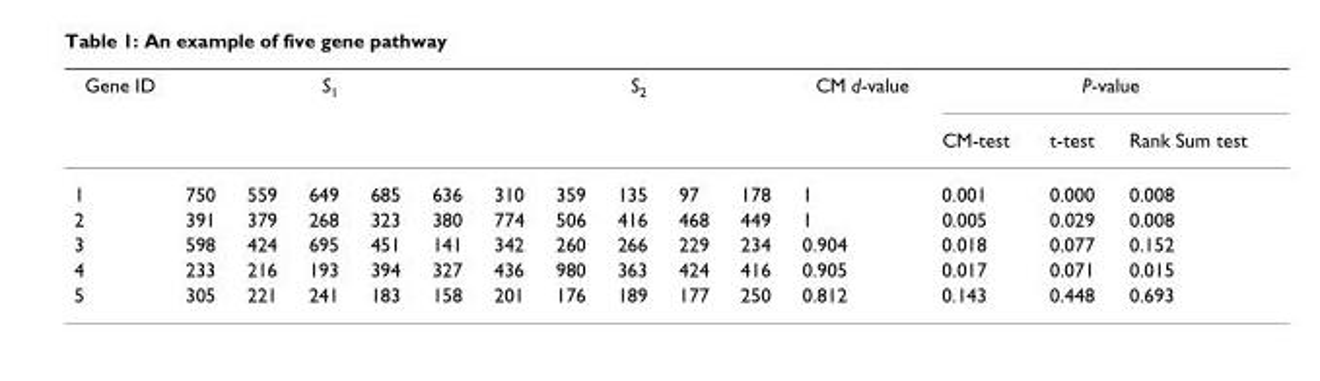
<table><thead><tr><td rowspan="2">Gene ID</td><td colspan="5">S<sub>1</sub></td><td colspan="5">S<sub>2</sub></td><td rowspan="2">CM d-value</td><td colspan="3">P-value</td></tr><tr><td></td><td></td><td></td><td></td><td></td><td></td><td></td><td></td><td></td><td></td><td>CM-test</td><td>t-test</td><td>Rank Sum test</td></tr></thead><tbody><tr><td>1</td><td>750</td><td>559</td><td>649</td><td>685</td><td>636</td><td>310</td><td>359</td><td>135</td><td>97</td><td>178</td><td>1</td><td>0.001</td><td>0.000</td><td>0.008</td></tr><tr><td>2</td><td>391</td><td>379</td><td>268</td><td>323</td><td>380</td><td>774</td><td>506</td><td>416</td><td>468</td><td>449</td><td>1</td><td>0.005</td><td>0.029</td><td>0.008</td></tr><tr><td>3</td><td>598</td><td>424</td><td>695</td><td>451</td><td>141</td><td>342</td><td>260</td><td>266</td><td>229</td><td>234</td><td>0.904</td><td>0.018</td><td>0.077</td><td>0.152</td></tr><tr><td>4</td><td>233</td><td>216</td><td>193</td><td>394</td><td>327</td><td>436</td><td>980</td><td>363</td><td>424</td><td>416</td><td>0.905</td><td>0.017</td><td>0.071</td><td>0.015</td></tr><tr><td>5</td><td>305</td><td>221</td><td>241</td><td>183</td><td>158</td><td>201</td><td>176</td><td>189</td><td>177</td><td>250</td><td>0.812</td><td>0.143</td><td>0.448</td><td>0.693</td></tr></tbody></table>